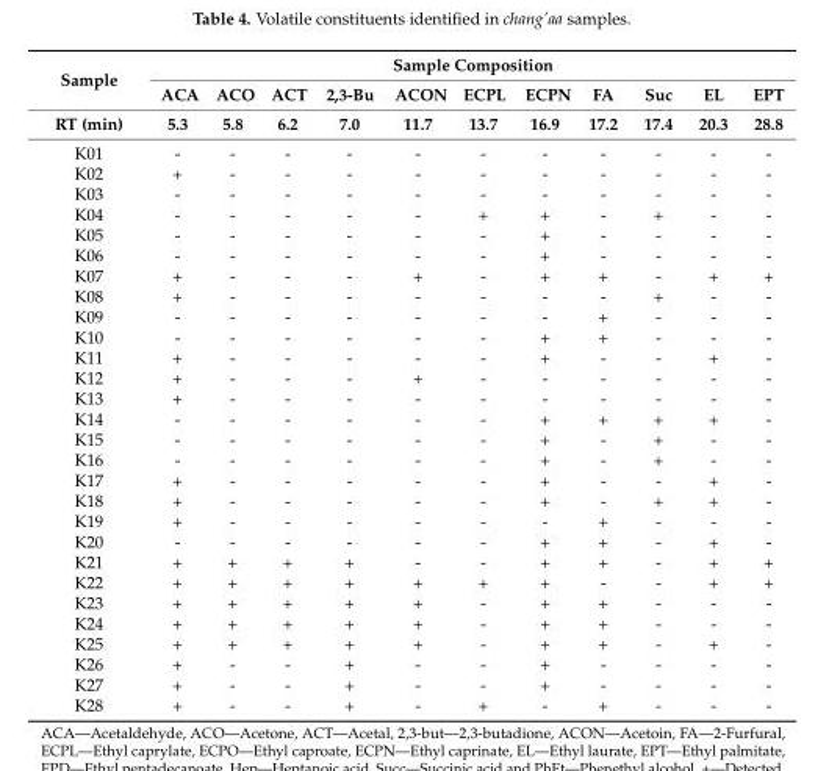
<table><thead><tr><td rowspan="3">Sample RT (min)</td><td colspan="11">Sample Composition</td></tr><tr><td rowspan="2">ACA 5.3</td><td rowspan="2">ACO 5.8</td><td rowspan="2">ACT 6.2</td><td rowspan="2">2,3-Bu 7.0</td><td rowspan="2">ACON 11.7</td><td rowspan="2">ECPL 13.7</td><td rowspan="2">ECPN 16.9</td><td rowspan="2">FA 17.2</td><td rowspan="2">Suc 17.4</td><td rowspan="2">EL 20.3</td><td rowspan="2">EPT 28.8</td></tr><tr></tr></thead><tbody><tr><td>K01</td><td>-</td><td>-</td><td>-</td><td>-</td><td>-</td><td>-</td><td>-</td><td>-</td><td>-</td><td>-</td><td>-</td></tr><tr><td>K02</td><td>+</td><td>-</td><td>-</td><td>-</td><td>-</td><td>-</td><td>-</td><td>-</td><td>-</td><td>-</td><td>-</td></tr><tr><td>K03</td><td>-</td><td>-</td><td>-</td><td>-</td><td>-</td><td>-</td><td>-</td><td>-</td><td>-</td><td>-</td><td>-</td></tr><tr><td>K04</td><td>-</td><td>-</td><td>-</td><td>-</td><td>-</td><td>+</td><td>+</td><td>-</td><td>+</td><td>-</td><td>-</td></tr><tr><td>K05</td><td>-</td><td>-</td><td>-</td><td>-</td><td>-</td><td>-</td><td>+</td><td>-</td><td>-</td><td>-</td><td>-</td></tr><tr><td>K06</td><td>-</td><td>-</td><td>-</td><td>-</td><td>-</td><td>-</td><td>+</td><td>-</td><td>-</td><td>-</td><td>-</td></tr><tr><td>K07</td><td>+</td><td>-</td><td>-</td><td>-</td><td>+</td><td>-</td><td>+</td><td>+</td><td>-</td><td>+</td><td>+</td></tr><tr><td>K08</td><td>+</td><td>-</td><td>-</td><td>-</td><td>-</td><td>-</td><td>-</td><td>-</td><td>+</td><td>-</td><td>-</td></tr><tr><td>K09</td><td>-</td><td>-</td><td>-</td><td>-</td><td>-</td><td>-</td><td>-</td><td>+</td><td>-</td><td>-</td><td>-</td></tr><tr><td>K10</td><td>-</td><td>-</td><td>-</td><td>-</td><td>-</td><td>-</td><td>+</td><td>+</td><td>-</td><td>-</td><td>-</td></tr><tr><td>K11</td><td>+</td><td>-</td><td>-</td><td>-</td><td>-</td><td>-</td><td>+</td><td>-</td><td>-</td><td>+</td><td>-</td></tr><tr><td>K12</td><td>+</td><td>-</td><td>-</td><td>-</td><td>+</td><td>-</td><td>-</td><td>-</td><td>-</td><td>-</td><td>-</td></tr><tr><td>K13</td><td>+</td><td>-</td><td>-</td><td>-</td><td>-</td><td>-</td><td>-</td><td>-</td><td>-</td><td>-</td><td>-</td></tr><tr><td>K14</td><td>-</td><td>-</td><td>-</td><td>-</td><td>-</td><td>-</td><td>+</td><td>+</td><td>+</td><td>+</td><td>-</td></tr><tr><td>K15</td><td>-</td><td>-</td><td>-</td><td>-</td><td>-</td><td>-</td><td>+</td><td>-</td><td>+</td><td>-</td><td>-</td></tr><tr><td>K16</td><td>-</td><td>-</td><td>-</td><td>-</td><td>-</td><td>-</td><td>+</td><td>-</td><td>+</td><td>-</td><td>-</td></tr><tr><td>K17</td><td>+</td><td>-</td><td>-</td><td>-</td><td>-</td><td>-</td><td>+</td><td>-</td><td>-</td><td>+</td><td>-</td></tr><tr><td>K18</td><td>+</td><td>-</td><td>-</td><td>-</td><td>-</td><td>-</td><td>+</td><td>-</td><td>+</td><td>+</td><td>-</td></tr><tr><td>K19</td><td>+</td><td>-</td><td>-</td><td>-</td><td>-</td><td>-</td><td>-</td><td>+</td><td>-</td><td>-</td><td>-</td></tr><tr><td>K20</td><td>-</td><td>-</td><td>-</td><td>-</td><td>-</td><td>-</td><td>+</td><td>+</td><td>-</td><td>+</td><td>-</td></tr><tr><td>K21</td><td>+</td><td>+</td><td>+</td><td>+</td><td>-</td><td>-</td><td>+</td><td>+</td><td>-</td><td>+</td><td>+</td></tr><tr><td>K22</td><td>+</td><td>+</td><td>+</td><td>+</td><td>+</td><td>+</td><td>+</td><td>-</td><td>-</td><td>+</td><td>+</td></tr><tr><td>K23</td><td>+</td><td>+</td><td>+</td><td>+</td><td>+</td><td>-</td><td>+</td><td>+</td><td>-</td><td>-</td><td>-</td></tr><tr><td>K24</td><td>+</td><td>+</td><td>+</td><td>+</td><td>+</td><td>-</td><td>+</td><td>+</td><td>-</td><td>-</td><td>-</td></tr><tr><td>K25</td><td>+</td><td>+</td><td>+</td><td>+</td><td>+</td><td>-</td><td>+</td><td>+</td><td>-</td><td>+</td><td>-</td></tr><tr><td>K26</td><td>+</td><td>-</td><td>-</td><td>+</td><td>-</td><td>-</td><td>+</td><td>-</td><td>-</td><td>-</td><td>-</td></tr><tr><td>K27</td><td>+</td><td>-</td><td>-</td><td>+</td><td>-</td><td>-</td><td>+</td><td>-</td><td>-</td><td>-</td><td>-</td></tr><tr><td>K28</td><td>+</td><td>-</td><td>-</td><td>+</td><td>-</td><td>+</td><td>-</td><td>+</td><td>-</td><td>-</td><td>-</td></tr></tbody></table>